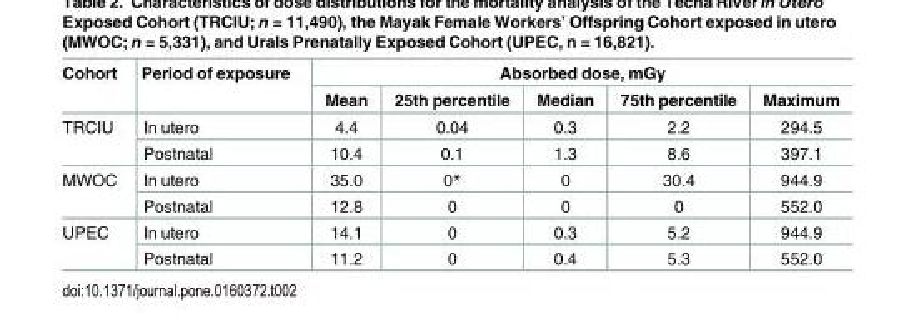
<table><thead><tr><td rowspan="2">Cohort</td><td rowspan="2">Period of exposure</td><td colspan="5">Absorbed dose, mGy</td></tr><tr><td>Mean</td><td>25th percentile</td><td>Median</td><td>75th percentile</td><td>Maximum</td></tr></thead><tbody><tr><td rowspan="2">TRCIU</td><td>In utero</td><td>4.4</td><td>0.04</td><td>0.3</td><td>2.2</td><td>294.5</td></tr><tr><td>Postnatal</td><td>10.4</td><td>0.1</td><td>1.3</td><td>8.6</td><td>397.1</td></tr><tr><td rowspan="2">MWOC</td><td>In utero</td><td>35.0</td><td>0*</td><td>0</td><td>30.4</td><td>944.9</td></tr><tr><td>Postnatal</td><td>12.8</td><td>0</td><td>0</td><td>0</td><td>552.0</td></tr><tr><td rowspan="2">UPEC</td><td>In utero</td><td>14.1</td><td>0</td><td>0.3</td><td>5.2</td><td>944.9</td></tr><tr><td>Postnatal</td><td>11.2</td><td>0</td><td>0.4</td><td>5.3</td><td>552.0</td></tr></tbody></table>